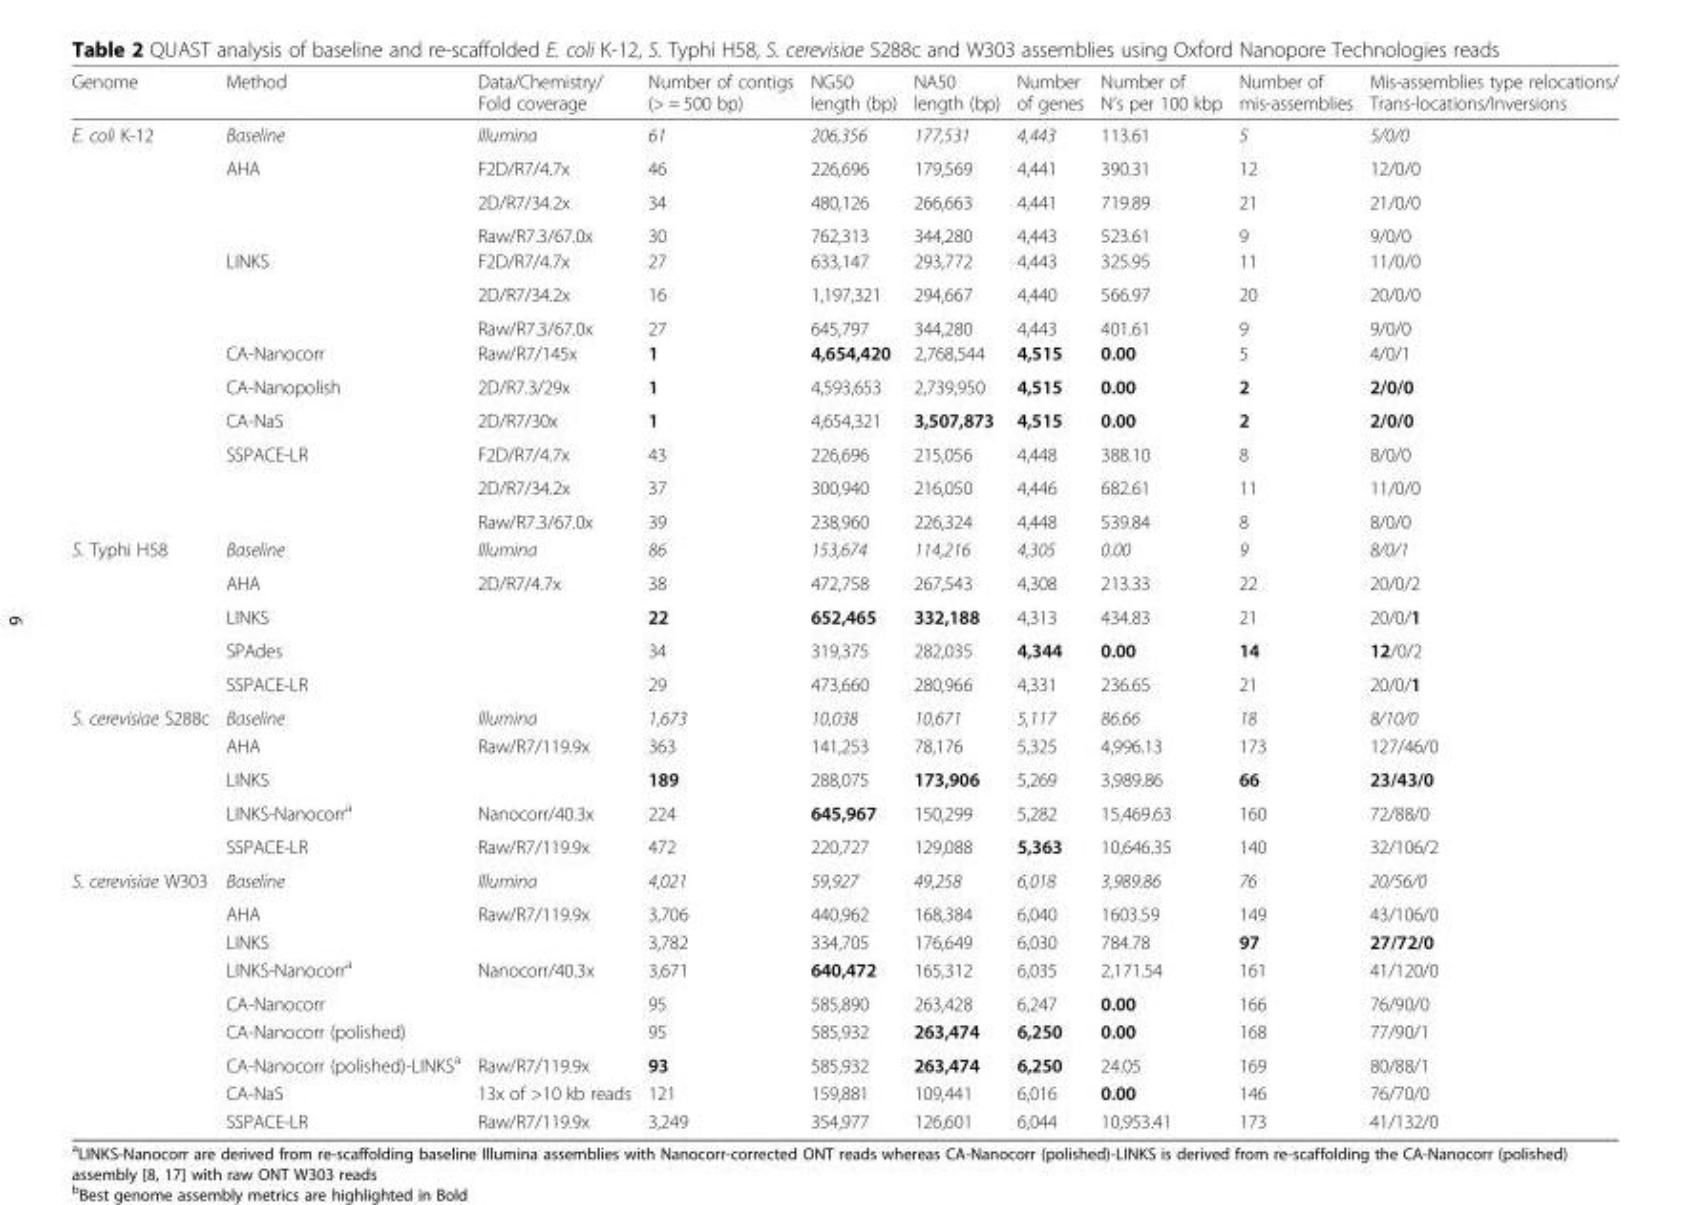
<table><thead><tr><td>Genome</td><td>Method</td><td>Data/Chemistry/ Fold coverage</td><td>Number of contigs (&gt; = 500 bp)</td><td>NG50 length (bp)</td><td>NA50 length (bp)</td><td>Number of genes</td><td>Number of N’s per 100 kbp</td><td>Number of mis-assemblies</td><td>Mis-assemblies type relocations/ Trans-locations/Inversions</td></tr></thead><tbody><tr><td rowspan="13">E. coli K-12</td><td>Baseline</td><td>Illumina</td><td>61</td><td>206,356</td><td>177,531</td><td>4,443</td><td>113.61</td><td>5</td><td>5/0/0</td></tr><tr><td>AHA</td><td>F2D/R7/4.7x</td><td>46</td><td>226,696</td><td>179,569</td><td>4,441</td><td>390.31</td><td>12</td><td>12/0/0</td></tr><tr><td></td><td>2D/R7/34.2x</td><td>34</td><td>480,126</td><td>266,663</td><td>4,441</td><td>719.89</td><td>21</td><td>21/0/0</td></tr><tr><td></td><td>Raw/R7.3/67.0x</td><td>30</td><td>762,313</td><td>344,280</td><td>4,443</td><td>523.61</td><td>9</td><td>9/0/0</td></tr><tr><td>LINKS</td><td>F2D/R7/4.7x</td><td>27</td><td>633,147</td><td>293,772</td><td>4,443</td><td>325.95</td><td>11</td><td>11/0/0</td></tr><tr><td></td><td>2D/R7/34.2x</td><td>16</td><td>1,197,321</td><td>294,667</td><td>4,440</td><td>566.97</td><td>20</td><td>20/0/0</td></tr><tr><td></td><td>Raw/R7.3/67.0x</td><td>27</td><td>645,797</td><td>344,280</td><td>4,443</td><td>401.61</td><td>9</td><td>9/0/0</td></tr><tr><td>CA-Nanocorr</td><td>Raw/R7/145x</td><td>1</td><td>4,654,420</td><td>2,768,544</td><td>4,515</td><td>0.00</td><td>5</td><td>4/0/1</td></tr><tr><td>CA-Nanopolish</td><td>2D/R7.3/29x</td><td>1</td><td>4,593,653</td><td>2,739,950</td><td>4,515</td><td>0.00</td><td>2</td><td>2/0/0</td></tr><tr><td>CA-NaS</td><td>2D/R7/30x</td><td>1</td><td>4,654,321</td><td>3,507,873</td><td>4,515</td><td>0.00</td><td>2</td><td>2/0/0</td></tr><tr><td>SSPACE-LR</td><td>F2D/R7/4.7x</td><td>43</td><td>226,696</td><td>215,056</td><td>4,448</td><td>388.10</td><td>8</td><td>8/0/0</td></tr><tr><td></td><td>2D/R7/34.2x</td><td>37</td><td>300,940</td><td>216,050</td><td>4,446</td><td>682.61</td><td>11</td><td>11/0/0</td></tr><tr><td></td><td>Raw/R7.3/67.0x</td><td>39</td><td>238,960</td><td>226,324</td><td>4,448</td><td>539.84</td><td>8</td><td>8/0/0</td></tr><tr><td rowspan="5">S. Typhi H58</td><td>Baseline</td><td>Illumina</td><td>86</td><td>153,674</td><td>114,216</td><td>4,305</td><td>0.00</td><td>9</td><td>8/0/1</td></tr><tr><td>AHA</td><td>2D/R7/4.7x</td><td>38</td><td>472,758</td><td>267,543</td><td>4,308</td><td>213.33</td><td>22</td><td>20/0/2</td></tr><tr><td>LINKS</td><td></td><td>22</td><td>652,465</td><td>332,188</td><td>4,313</td><td>434.83</td><td>21</td><td>20/0/1</td></tr><tr><td>SPAdes</td><td></td><td>34</td><td>319,375</td><td>282,035</td><td>4,344</td><td>0.00</td><td>14</td><td>12/0/2</td></tr><tr><td>SSPACE-LR</td><td></td><td>29</td><td>473,660</td><td>280,966</td><td>4,331</td><td>236.65</td><td>21</td><td>20/0/1</td></tr><tr><td rowspan="5">S. cerevisiae S288c</td><td>Baseline</td><td>Illumina</td><td>1,673</td><td>10,038</td><td>10,671</td><td>5,117</td><td>86.66</td><td>18</td><td>8/10/0</td></tr><tr><td>AHA</td><td>Raw/R7/119.9x</td><td>363</td><td>141,253</td><td>78,176</td><td>5,325</td><td>4,996.13</td><td>173</td><td>127/46/0</td></tr><tr><td>LINKS</td><td></td><td>189</td><td>288,075</td><td>173,906</td><td>5,269</td><td>3,989.86</td><td>66</td><td>23/43/0</td></tr><tr><td>LINKS-Nanocorr<sup>a</sup></td><td>Nanocorr/40.3x</td><td>224</td><td>645,967</td><td>150,299</td><td>5,282</td><td>15,469.63</td><td>160</td><td>72/88/0</td></tr><tr><td>SSPACE-LR</td><td>Raw/R7/119.9x</td><td>472</td><td>220,727</td><td>129,088</td><td>5,363</td><td>10,646.35</td><td>140</td><td>32/106/2</td></tr><tr><td rowspan="9">S. cerevisiae W303</td><td>Baseline</td><td>Illumina</td><td>4,021</td><td>59,927</td><td>49,258</td><td>6,018</td><td>3,989.86</td><td>76</td><td>20/56/0</td></tr><tr><td>AHA</td><td>Raw/R7/119.9x</td><td>3,706</td><td>440,962</td><td>168,384</td><td>6,040</td><td>1603.59</td><td>149</td><td>43/106/0</td></tr><tr><td>LINKS</td><td></td><td>3,782</td><td>334,705</td><td>176,649</td><td>6,030</td><td>784.78</td><td>97</td><td>27/72/0</td></tr><tr><td>LINKS-Nanocorr<sup>a</sup></td><td>Nanocorr/40.3x</td><td>3,671</td><td>640,472</td><td>165,312</td><td>6,035</td><td>2,171.54</td><td>161</td><td>41/120/0</td></tr><tr><td>CA-Nanocorr</td><td></td><td>95</td><td>585,890</td><td>263,428</td><td>6,247</td><td>0.00</td><td>166</td><td>76/90/0</td></tr><tr><td>CA-Nanocorr (polished)</td><td></td><td>95</td><td>585,932</td><td>263,474</td><td>6,250</td><td>0.00</td><td>168</td><td>77/90/1</td></tr><tr><td>CA-Nanocorr (polished)-LINKS<sup>a</sup></td><td>Raw/R7/119.9x</td><td>93</td><td>585,932</td><td>263,474</td><td>6,250</td><td>24.05</td><td>169</td><td>80/88/1</td></tr><tr><td>CA-NaS</td><td>13x of &gt;10 kb reads</td><td>121</td><td>159,881</td><td>109,441</td><td>6,016</td><td>0.00</td><td>146</td><td>76/70/0</td></tr><tr><td>SSPACE-LR</td><td>Raw/R7/119.9x</td><td>3,249</td><td>354,977</td><td>126,601</td><td>6,044</td><td>10,953.41</td><td>173</td><td>41/132/0</td></tr></tbody></table>